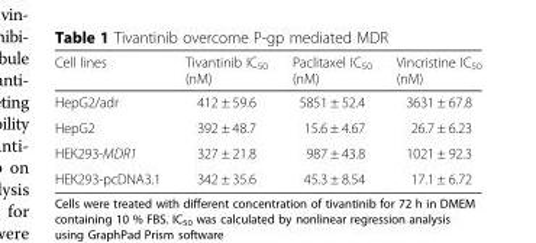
<table><thead><tr><td>Cell lines</td><td>Tivantinib IC<sub>50</sub> (nM)</td><td>Paclitaxel IC<sub>50</sub> (nM)</td><td>Vincristine IC<sub>50</sub> (nM)</td></tr></thead><tbody><tr><td>HepG2/adr</td><td>412 ± 59.6</td><td>5851 ± 52.4</td><td>3631 ± 67.8</td></tr><tr><td>HepG2</td><td>392 ± 48.7</td><td>15.6 ± 4.67</td><td>26.7 ± 6.23</td></tr><tr><td>HEK293-MDR1</td><td>327 ± 21.8</td><td>987 ± 43.8</td><td>1021 ± 92.3</td></tr><tr><td>HEK293-pcDNA3.1</td><td>342 ± 35.6</td><td>45.3 ± 8.54</td><td>17.1 ± 6.72</td></tr></tbody></table>